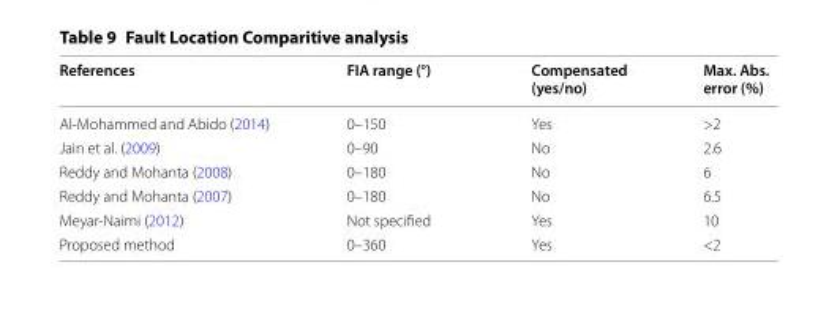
<table><thead><tr><td>References</td><td>FIA range (°)</td><td>Compensated (yes/no)</td><td>Max. Abs. error (%)</td></tr></thead><tbody><tr><td>Al-Mohammed and Abido (2014)</td><td>0–150</td><td>Yes</td><td>&gt;2</td></tr><tr><td>Jain et al. (2009)</td><td>0–90</td><td>No</td><td>2.6</td></tr><tr><td>Reddy and Mohanta (2008)</td><td>0–180</td><td>No</td><td>6</td></tr><tr><td>Reddy and Mohanta (2007)</td><td>0–180</td><td>No</td><td>6.5</td></tr><tr><td>Meyar-Naimi (2012)</td><td>Not specified</td><td>Yes</td><td>10</td></tr><tr><td>Proposed method</td><td>0–360</td><td>Yes</td><td>&lt;2</td></tr></tbody></table>